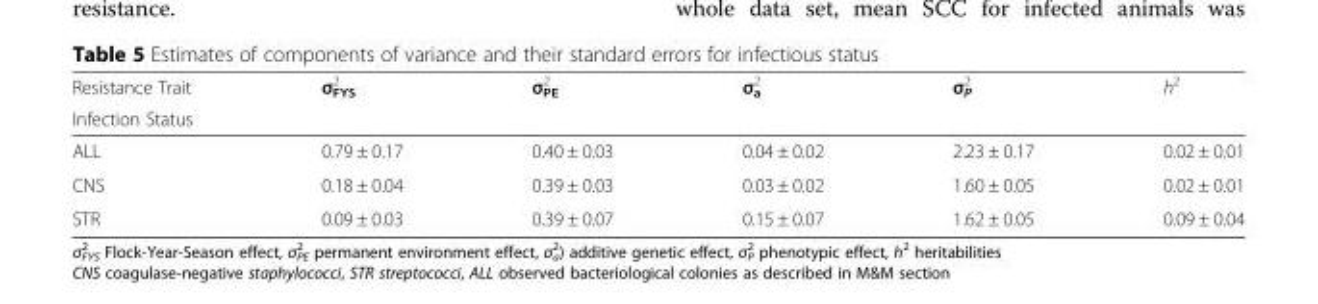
<table><thead><tr><td rowspan="2">Resistance Trait Infection Status</td><td rowspan="2">σ<sup>2</sup> <sub>FYS</sub></td><td rowspan="2">σ<sup>2</sup> <sub>PE</sub></td><td rowspan="2">σ<sub>a</sub> <sup>2</sup></td><td rowspan="2">σ<sub>P</sub> <sup>2</sup></td><td rowspan="2">h<sup>2</sup></td></tr><tr></tr></thead><tbody><tr><td>ALL</td><td>0.79 ± 0.17</td><td>0.40 ± 0.03</td><td>0.04 ± 0.02</td><td>2.23 ± 0.17</td><td>0.02 ± 0.01</td></tr><tr><td>CNS</td><td>0.18 ± 0.04</td><td>0.39 ± 0.03</td><td>0.03 ± 0.02</td><td>1.60 ± 0.05</td><td>0.02 ± 0.01</td></tr><tr><td>STR</td><td>0.09 ± 0.03</td><td>0.39 ± 0.07</td><td>0.15 ± 0.07</td><td>1.62 ± 0.05</td><td>0.09 ± 0.04</td></tr></tbody></table>